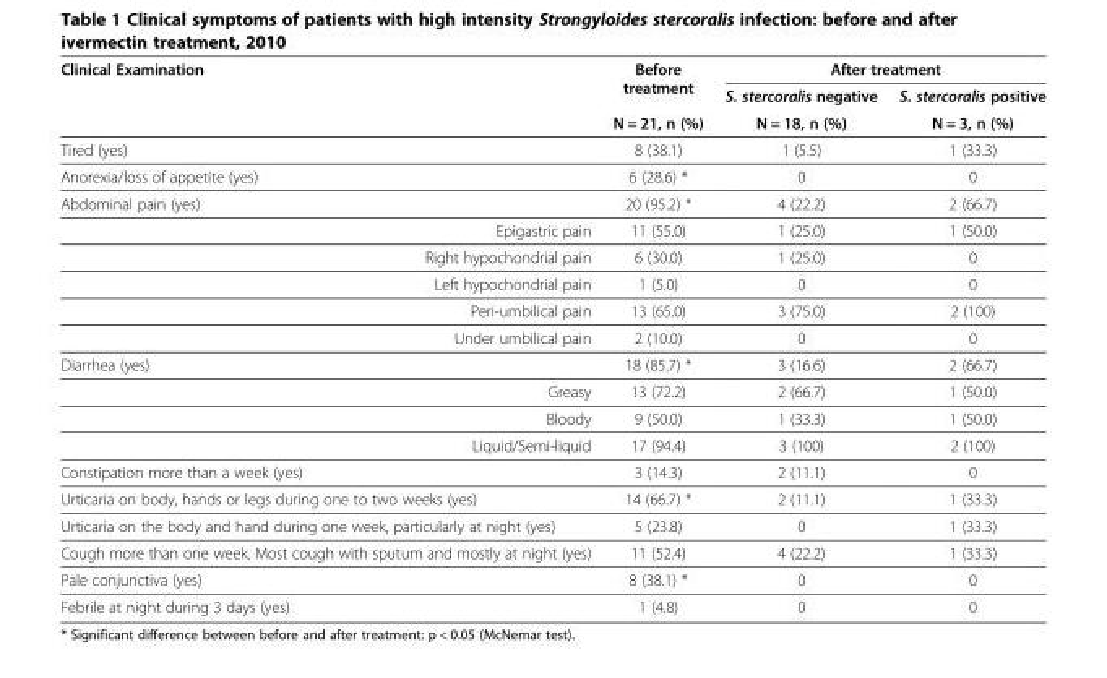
<table><thead><tr><td rowspan="3">Clinical Examination</td><td rowspan="3">Before treatment N = 21, n (%)</td><td colspan="2">After treatment</td></tr><tr><td rowspan="2">S. stercoralis negative N = 18, n (%)</td><td rowspan="2">S. stercoralis positive N = 3, n (%)</td></tr><tr></tr></thead><tbody><tr><td>Tired (yes)</td><td>8 (38.1)</td><td>1 (5.5)</td><td>1 (33.3)</td></tr><tr><td>Anorexia/loss of appetite (yes)</td><td>6 (28.6) *</td><td>0</td><td>0</td></tr><tr><td>Abdominal pain (yes)</td><td>20 (95.2) *</td><td>4 (22.2)</td><td>2 (66.7)</td></tr><tr><td>Epigastric pain</td><td>11 (55.0)</td><td>1 (25.0)</td><td>1 (50.0)</td></tr><tr><td>Right hypochondrial pain</td><td>6 (30.0)</td><td>1 (25.0)</td><td>0</td></tr><tr><td>Left hypochondrial pain</td><td>1 (5.0)</td><td>0</td><td>0</td></tr><tr><td>Peri-umbilical pain</td><td>13 (65.0)</td><td>3 (75.0)</td><td>2 (100)</td></tr><tr><td>Under umbilical pain</td><td>2 (10.0)</td><td>0</td><td>0</td></tr><tr><td>Diarrhea (yes)</td><td>18 (85.7) *</td><td>3 (16.6)</td><td>2 (66.7)</td></tr><tr><td>Greasy</td><td>13 (72.2)</td><td>2 (66.7)</td><td>1 (50.0)</td></tr><tr><td>Bloody</td><td>9 (50.0)</td><td>1 (33.3)</td><td>1 (50.0)</td></tr><tr><td>Liquid/Semi-liquid</td><td>17 (94.4)</td><td>3 (100)</td><td>2 (100)</td></tr><tr><td>Constipation more than a week (yes)</td><td>3 (14.3)</td><td>2 (11.1)</td><td>0</td></tr><tr><td>Urticaria on body, hands or legs during one to two weeks (yes)</td><td>14 (66.7) *</td><td>2 (11.1)</td><td>1 (33.3)</td></tr><tr><td>Urticaria on the body and hand during one week, particularly at night (yes)</td><td>5 (23.8)</td><td>0</td><td>1 (33.3)</td></tr><tr><td>Cough more than one week. Most cough with sputum and mostly at night (yes)</td><td>11 (52.4)</td><td>4 (22.2)</td><td>1 (33.3)</td></tr><tr><td>Pale conjunctiva (yes)</td><td>8 (38.1) *</td><td>0</td><td>0</td></tr><tr><td>Febrile at night during 3 days (yes)</td><td>1 (4.8)</td><td>0</td><td>0</td></tr></tbody></table>